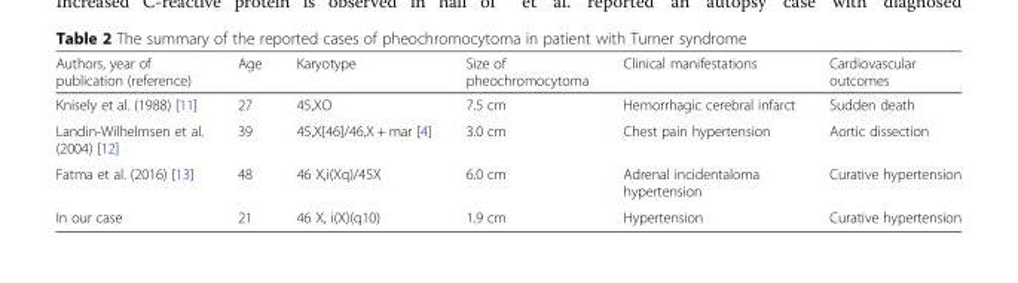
<table><thead><tr><td>Authors, year of publication (reference)</td><td>Age</td><td>Karyotype</td><td>Size of pheochromocytoma</td><td>Clinical manifestations</td><td>Cardiovascular outcomes</td></tr></thead><tbody><tr><td>Knisely et al. (1988) [11]</td><td>27</td><td>45,XO</td><td>7.5 cm</td><td>Hemorrhagic cerebral infarct</td><td>Sudden death</td></tr><tr><td>Landin-Wilhelmsen et al. (2004) [12]</td><td>39</td><td>45,X[46]/46,X + mar [4]</td><td>3.0 cm</td><td>Chest pain hypertension</td><td>Aortic dissection</td></tr><tr><td>Fatma et al. (2016) [13]</td><td>48</td><td>46 X,i(Xq)/45X</td><td>6.0 cm</td><td>Adrenal incidentaloma hypertension</td><td>Curative hypertension</td></tr><tr><td>In our case</td><td>21</td><td>46 X, i(X)(q10)</td><td>1.9 cm</td><td>Hypertension</td><td>Curative hypertension</td></tr></tbody></table>